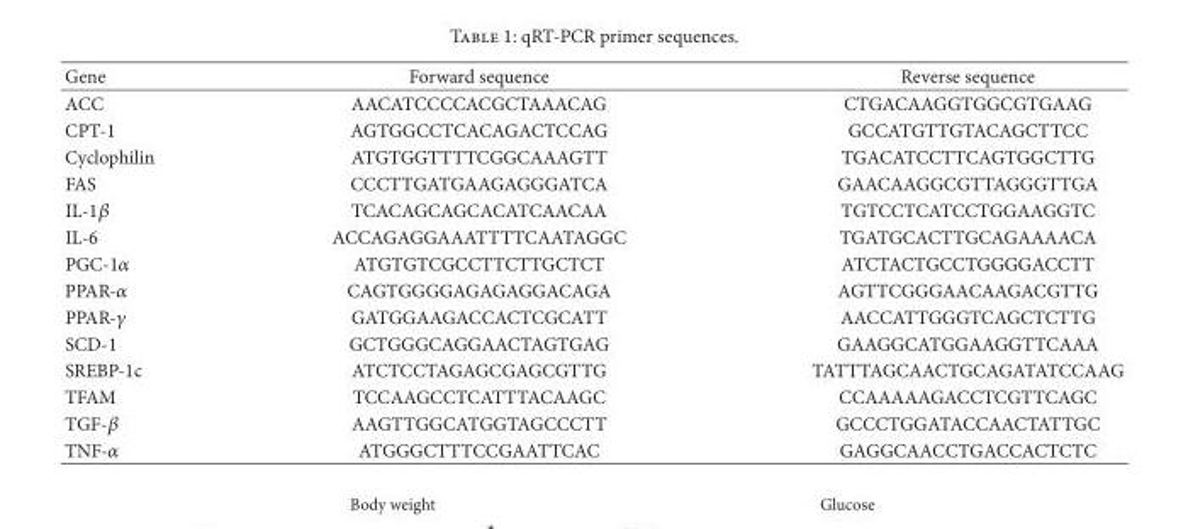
<table><thead><tr><td>Gene</td><td>Forward sequence</td><td>Reverse sequence</td></tr></thead><tbody><tr><td>ACC</td><td>AACATCCCCACGCTAAACAG</td><td>CTGACAAGGTGGCGTGAAG</td></tr><tr><td>CPT-1</td><td>AGTGGCCTCACAGACTCCAG</td><td>GCCATGTTGTACAGCTTCC</td></tr><tr><td>Cyclophilin</td><td>ATGTGGTTTTCGGCAAAGTT</td><td>TGACATCCTTCAGTGGCTTG</td></tr><tr><td>FAS</td><td>CCCTTGATGAAGAGGGATCA</td><td>GAACAAGGCGTTAGGGTTGA</td></tr><tr><td>IL-1𝛽𝛽</td><td>TCACAGCAGCACATCAACAA</td><td>TGTCCTCATCCTGGAAGGTC</td></tr><tr><td>IL-6</td><td>ACCAGAGGAAATTTTCAATAGGC</td><td>TGATGCACTTGCAGAAAACA</td></tr><tr><td>PGC-1𝛼𝛼</td><td>ATGTGTCGCCTTCTTGCTCT</td><td>ATCTACTGCCTGGGGACCTT</td></tr><tr><td>PPAR-𝛼𝛼</td><td>CAGTGGGGAGAGAGGACAGA</td><td>AGTTCGGGAACAAGACGTTG</td></tr><tr><td>PPAR-𝛾𝛾</td><td>GATGGAAGACCACTCGCATT</td><td>AACCATTGGGTCAGCTCTTG</td></tr><tr><td>SCD-1</td><td>GCTGGGCAGGAACTAGTGAG</td><td>GAAGGCATGGAAGGTTCAAA</td></tr><tr><td>SREBP-1c</td><td>ATCTCCTAGAGCGAGCGTTG</td><td>TATTTAGCAACTGCAGATATCCAAG</td></tr><tr><td>TFAM</td><td>TCCAAGCCTCATTTACAAGC</td><td>CCAAAAAGACCTCGTTCAGC</td></tr><tr><td>TGF-𝛽𝛽</td><td>AAGTTGGCATGGTAGCCCTT</td><td>GCCCTGGATACCAACTATTGC</td></tr><tr><td>TNF-𝛼𝛼</td><td>ATGGGCTTTCCGAATTCAC</td><td>GAGGCAACCTGACCACTCTC</td></tr></tbody></table>